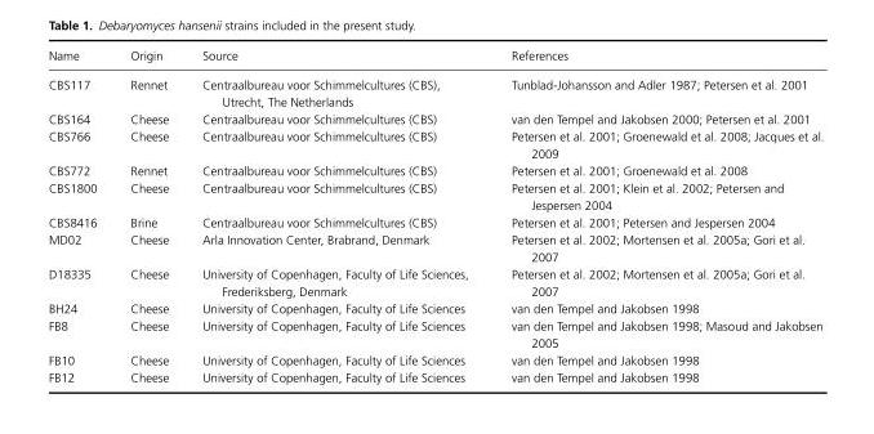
<table><thead><tr><td>Name</td><td>Origin</td><td>Source</td><td>References</td></tr></thead><tbody><tr><td>CBS117</td><td>Rennet</td><td>Centraalbureau voor Schimmelcultures (CBS), Utrecht, The Netherlands</td><td>Tunblad-Johansson and Adler 1987; Petersen et al. 2001</td></tr><tr><td>CBS164</td><td>Cheese</td><td>Centraalbureau voor Schimmelcultures (CBS)</td><td>van den Tempel and Jakobsen 2000; Petersen et al. 2001</td></tr><tr><td>CBS766</td><td>Cheese</td><td>Centraalbureau voor Schimmelcultures (CBS)</td><td>Petersen et al. 2001; Groenewald et al. 2008; Jacques et al. 2009</td></tr><tr><td>CBS772</td><td>Rennet</td><td>Centraalbureau voor Schimmelcultures (CBS)</td><td>Petersen et al. 2001; Groenewald et al. 2008</td></tr><tr><td>CBS1800</td><td>Cheese</td><td>Centraalbureau voor Schimmelcultures (CBS)</td><td>Petersen et al. 2001; Klein et al. 2002; Petersen and Jespersen 2004</td></tr><tr><td>CBS8416</td><td>Brine</td><td>Centraalbureau voor Schimmelcultures (CBS)</td><td>Petersen et al. 2001; Petersen and Jespersen 2004</td></tr><tr><td>MD02</td><td>Cheese</td><td>Arla Innovation Center, Brabrand, Denmark</td><td>Petersen et al. 2002; Mortensen et al. 2005a; Gori et al. 2007</td></tr><tr><td>D18335</td><td>Cheese</td><td>University of Copenhagen, Faculty of Life Sciences, Frederiksberg, Denmark</td><td>Petersen et al. 2002; Mortensen et al. 2005a; Gori et al. 2007</td></tr><tr><td>BH24</td><td>Cheese</td><td>University of Copenhagen, Faculty of Life Sciences</td><td>van den Tempel and Jakobsen 1998</td></tr><tr><td>FB8</td><td>Cheese</td><td>University of Copenhagen, Faculty of Life Sciences</td><td>van den Tempel and Jakobsen 1998; Masoud and Jakobsen 2005</td></tr><tr><td>FB10</td><td>Cheese</td><td>University of Copenhagen, Faculty of Life Sciences</td><td>van den Tempel and Jakobsen 1998</td></tr><tr><td>FB12</td><td>Cheese</td><td>University of Copenhagen, Faculty of Life Sciences</td><td>van den Tempel and Jakobsen 1998</td></tr></tbody></table>